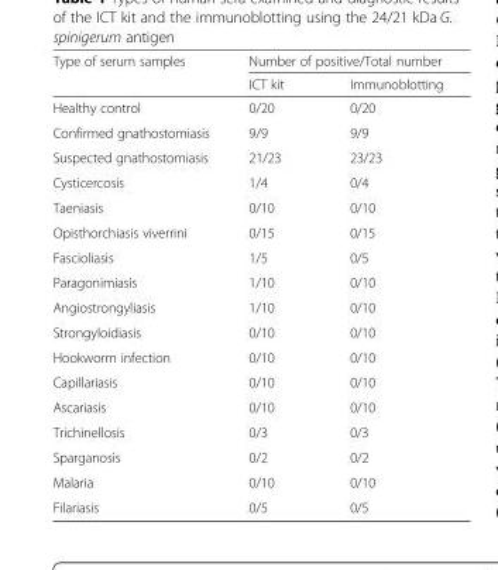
<table><thead><tr><td rowspan="2">Type of serum samples</td><td colspan="2">Number of positive/Total number</td></tr><tr><td>ICT kit</td><td>Immunoblotting</td></tr></thead><tbody><tr><td>Healthy control</td><td>0/20</td><td>0/20</td></tr><tr><td>Confirmed gnathostomiasis</td><td>9/9</td><td>9/9</td></tr><tr><td>Suspected gnathostomiasis</td><td>21/23</td><td>23/23</td></tr><tr><td>Cysticercosis</td><td>1/4</td><td>0/4</td></tr><tr><td>Taeniasis</td><td>0/10</td><td>0/10</td></tr><tr><td>Opisthorchiasis viverrini</td><td>0/15</td><td>0/15</td></tr><tr><td>Fascioliasis</td><td>1/5</td><td>0/5</td></tr><tr><td>Paragonimiasis</td><td>1/10</td><td>0/10</td></tr><tr><td>Angiostrongyliasis</td><td>1/10</td><td>0/10</td></tr><tr><td>Strongyloidiasis</td><td>0/10</td><td>0/10</td></tr><tr><td>Hookworm infection</td><td>0/10</td><td>0/10</td></tr><tr><td>Capillariasis</td><td>0/10</td><td>0/10</td></tr><tr><td>Ascariasis</td><td>0/10</td><td>0/10</td></tr><tr><td>Trichinellosis</td><td>0/3</td><td>0/3</td></tr><tr><td>Sparganosis</td><td>0/2</td><td>0/2</td></tr><tr><td>Malaria</td><td>0/10</td><td>0/10</td></tr><tr><td>Filariasis</td><td>0/5</td><td>0/5</td></tr></tbody></table>